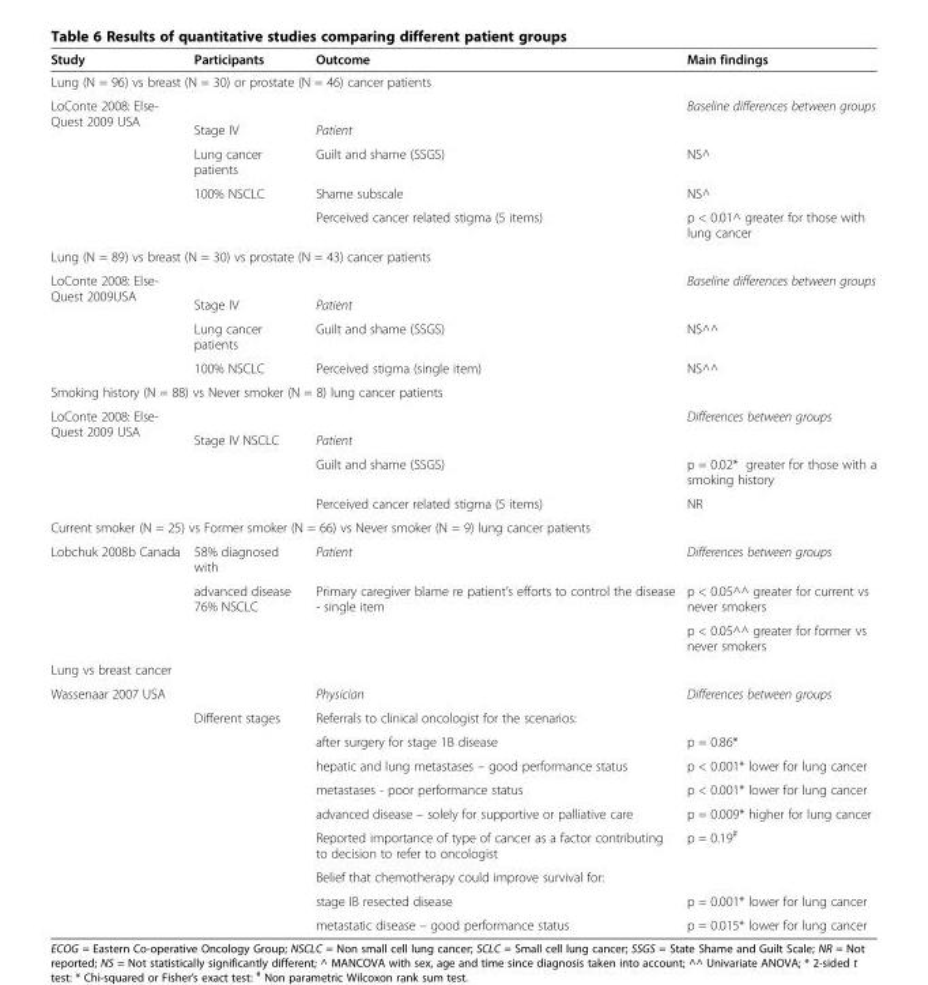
<table><thead><tr><td>Study</td><td>Participants</td><td>Outcome</td><td>Main findings</td></tr></thead><tbody><tr><td colspan="4">Lung (N = 96) vs breast (N = 30) or prostate (N = 46) cancer patients</td></tr><tr><td rowspan="5">LoConte 2008: Else- Quest 2009 USA</td><td></td><td></td><td>Baseline differences between groups</td></tr><tr><td>Stage IV</td><td>Patient</td><td></td></tr><tr><td>Lung cancer patients</td><td>Guilt and shame (SSGS)</td><td>NS^</td></tr><tr><td rowspan="2">100% NSCLC</td><td>Shame subscale</td><td>NS^</td></tr><tr><td>Perceived cancer related stigma (5 items)</td><td>p &lt; 0.01^ greater for those with lung cancer</td></tr><tr><td colspan="4">Lung (N = 89) vs breast (N = 30) vs prostate (N = 43) cancer patients</td></tr><tr><td rowspan="4">LoConte 2008: Else- Quest 2009USA</td><td></td><td></td><td>Baseline differences between groups</td></tr><tr><td>Stage IV</td><td>Patient</td><td></td></tr><tr><td>Lung cancer patients</td><td>Guilt and shame (SSGS)</td><td>NS^^</td></tr><tr><td>100% NSCLC</td><td>Perceived stigma (single item)</td><td>NS^^</td></tr><tr><td colspan="4">Smoking history (N = 88) vs Never smoker (N = 8) lung cancer patients</td></tr><tr><td rowspan="4">LoConte 2008: Else- Quest 2009 USA</td><td></td><td></td><td>Differences between groups</td></tr><tr><td>Stage IV NSCLC</td><td>Patient</td><td></td></tr><tr><td rowspan="2"></td><td>Guilt and shame (SSGS)</td><td>p = 0.02* greater for those with a smoking history</td></tr><tr><td>Perceived cancer related stigma (5 items)</td><td>NR</td></tr><tr><td colspan="4">Current smoker (N = 25) vs Former smoker (N = 66) vs Never smoker (N = 9) lung cancer patients</td></tr><tr><td rowspan="3">Lobchuk 2008b Canada</td><td>58% diagnosed with</td><td>Patient</td><td>Differences between groups</td></tr><tr><td rowspan="2">advanced disease 76% NSCLC</td><td rowspan="2">Primary caregiver blame re patient’s efforts to control the disease - single item</td><td>p &lt; 0.05^^ greater for current vs never smokers</td></tr><tr><td>p &lt; 0.05^^ greater for former vs never smokers</td></tr><tr><td colspan="4">Lung vs breast cancer</td></tr><tr><td rowspan="10">Wassenaar 2007 USA</td><td></td><td>Physician</td><td>Differences between groups</td></tr><tr><td rowspan="9">Different stages</td><td>Referrals to clinical oncologist for the scenarios:</td><td></td></tr><tr><td>after surgery for stage 1B disease</td><td>p = 0.86*</td></tr><tr><td>hepatic and lung metastases – good performance status</td><td>p &lt; 0.001* lower for lung cancer</td></tr><tr><td>metastases - poor performance status</td><td>p &lt; 0.001* lower for lung cancer</td></tr><tr><td>advanced disease – solely for supportive or palliative care</td><td>p = 0.009* higher for lung cancer</td></tr><tr><td>Reported importance of type of cancer as a factor contributing to decision to refer to oncologist</td><td>p = 0.19<sup>#</sup></td></tr><tr><td>Belief that chemotherapy could improve survival for:</td><td></td></tr><tr><td>stage IB resected disease</td><td>p = 0.001* lower for lung cancer</td></tr><tr><td>metastatic disease – good performance status</td><td>p = 0.015* lower for lung cancer</td></tr></tbody></table>